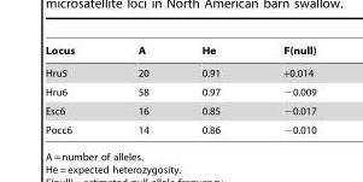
<table><thead><tr><td>Locus</td><td>A</td><td>He</td><td>F(null)</td></tr></thead><tbody><tr><td>Hru5</td><td>20</td><td>0.91</td><td>+0.014</td></tr><tr><td>Hru6</td><td>58</td><td>0.97</td><td>−0.009</td></tr><tr><td>Esc6</td><td>16</td><td>0.85</td><td>−0.017</td></tr><tr><td>Pocc6</td><td>14</td><td>0.86</td><td>−0.010</td></tr></tbody></table>